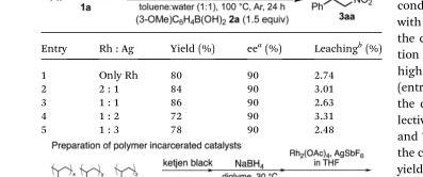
<table><thead><tr><td>Entry</td><td>Rh : Ag</td><td>Yield (%)</td><td>ee<sup>a</sup> (%)</td><td>Leaching<sup>b</sup> (%)</td></tr></thead><tbody><tr><td>1</td><td>Only Rh</td><td>80</td><td>90</td><td>2.74</td></tr><tr><td>2</td><td>2 : 1</td><td>84</td><td>90</td><td>3.01</td></tr><tr><td>3</td><td>1 : 1</td><td>86</td><td>90</td><td>2.63</td></tr><tr><td>4</td><td>1 : 2</td><td>72</td><td>90</td><td>3.31</td></tr><tr><td>5</td><td>1 : 3</td><td>78</td><td>90</td><td>2.48</td></tr></tbody></table>